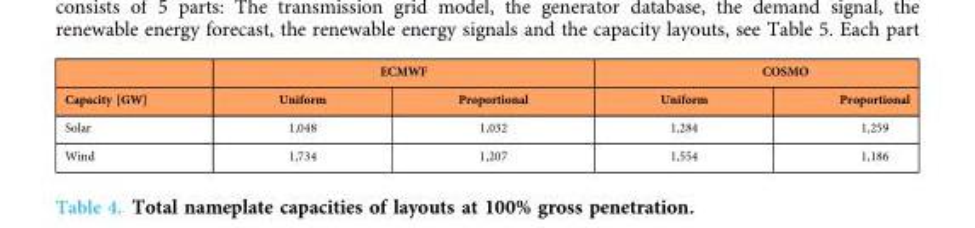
<table><thead><tr><td rowspan="2">Capacity [GW]</td><td colspan="2">ECMWF</td><td colspan="2">COSMO</td></tr><tr><td>Uniform</td><td>Proportional</td><td>Uniform</td><td>Proportional</td></tr></thead><tbody><tr><td>Solar</td><td>1,048</td><td>1,032</td><td>1,284</td><td>1,259</td></tr><tr><td>Wind</td><td>1,734</td><td>1,207</td><td>1,554</td><td>1,186</td></tr></tbody></table>